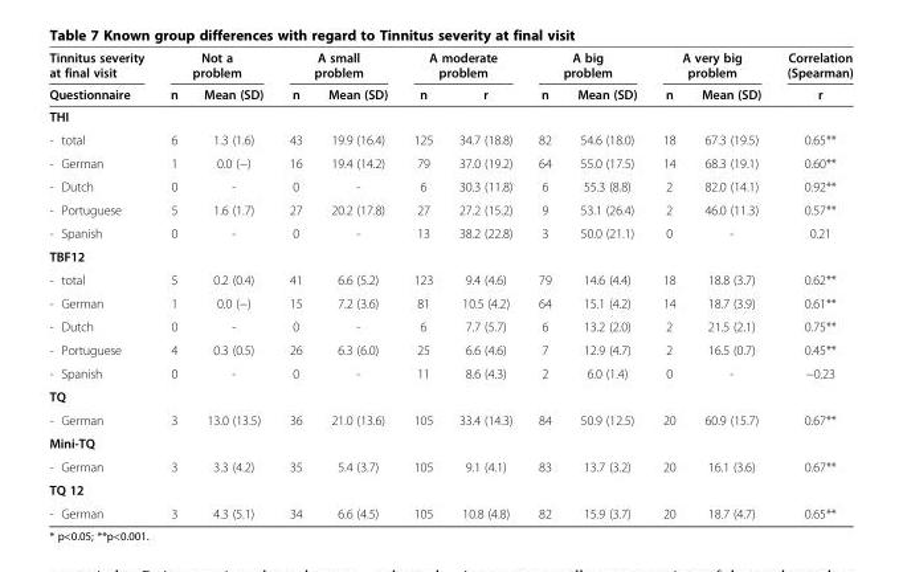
<table><thead><tr><td rowspan="2">Tinnitus severity at final visit Questionnaire</td><td colspan="2">Not a problem</td><td colspan="2">A small problem</td><td colspan="2">A moderate problem</td><td colspan="2">A big problem</td><td colspan="2">A very big problem</td><td rowspan="2">Correlation (Spearman) r</td></tr><tr><td>n</td><td>Mean (SD)</td><td>n</td><td>Mean (SD)</td><td>n</td><td>r</td><td>n</td><td>Mean (SD)</td><td>n</td><td>Mean (SD)</td></tr></thead><tbody><tr><td colspan="12">THI</td></tr><tr><td>- total</td><td>6</td><td>1.3 (1.6)</td><td>43</td><td>19.9 (16.4)</td><td>125</td><td>34.7 (18.8)</td><td>82</td><td>54.6 (18.0)</td><td>18</td><td>67.3 (19.5)</td><td>0.65**</td></tr><tr><td>- German</td><td>1</td><td>0.0 (−)</td><td>16</td><td>19.4 (14.2)</td><td>79</td><td>37.0 (19.2)</td><td>64</td><td>55.0 (17.5)</td><td>14</td><td>68.3 (19.1)</td><td>0.60**</td></tr><tr><td>- Dutch</td><td>0</td><td>-</td><td>0</td><td>-</td><td>6</td><td>30.3 (11.8)</td><td>6</td><td>55.3 (8.8)</td><td>2</td><td>82.0 (14.1)</td><td>0.92**</td></tr><tr><td>- Portuguese</td><td>5</td><td>1.6 (1.7)</td><td>27</td><td>20.2 (17.8)</td><td>27</td><td>27.2 (15.2)</td><td>9</td><td>53.1 (26.4)</td><td>2</td><td>46.0 (11.3)</td><td>0.57**</td></tr><tr><td>- Spanish</td><td>0</td><td>-</td><td>0</td><td>-</td><td>13</td><td>38.2 (22.8)</td><td>3</td><td>50.0 (21.1)</td><td>0</td><td>-</td><td>0.21</td></tr><tr><td colspan="12">TBF12</td></tr><tr><td>- total</td><td>5</td><td>0.2 (0.4)</td><td>41</td><td>6.6 (5.2)</td><td>123</td><td>9.4 (4.6)</td><td>79</td><td>14.6 (4.4)</td><td>18</td><td>18.8 (3.7)</td><td>0.62**</td></tr><tr><td>- German</td><td>1</td><td>0.0 (−)</td><td>15</td><td>7.2 (3.6)</td><td>81</td><td>10.5 (4.2)</td><td>64</td><td>15.1 (4.2)</td><td>14</td><td>18.7 (3.9)</td><td>0.61**</td></tr><tr><td>- Dutch</td><td>0</td><td>-</td><td>0</td><td>-</td><td>6</td><td>7.7 (5.7)</td><td>6</td><td>13.2 (2.0)</td><td>2</td><td>21.5 (2.1)</td><td>0.75**</td></tr><tr><td>- Portuguese</td><td>4</td><td>0.3 (0.5)</td><td>26</td><td>6.3 (6.0)</td><td>25</td><td>6.6 (4.6)</td><td>7</td><td>12.9 (4.7)</td><td>2</td><td>16.5 (0.7)</td><td>0.45**</td></tr><tr><td>- Spanish</td><td>0</td><td>-</td><td>0</td><td>-</td><td>11</td><td>8.6 (4.3)</td><td>2</td><td>6.0 (1.4)</td><td>0</td><td>-</td><td>−0.23</td></tr><tr><td colspan="12">TQ</td></tr><tr><td>- German</td><td>3</td><td>13.0 (13.5)</td><td>36</td><td>21.0 (13.6)</td><td>105</td><td>33.4 (14.3)</td><td>84</td><td>50.9 (12.5)</td><td>20</td><td>60.9 (15.7)</td><td>0.67**</td></tr><tr><td colspan="12">Mini-TQ</td></tr><tr><td>- German</td><td>3</td><td>3.3 (4.2)</td><td>35</td><td>5.4 (3.7)</td><td>105</td><td>9.1 (4.1)</td><td>83</td><td>13.7 (3.2)</td><td>20</td><td>16.1 (3.6)</td><td>0.67**</td></tr><tr><td colspan="12">TQ 12</td></tr><tr><td>- German</td><td>3</td><td>4.3 (5.1)</td><td>34</td><td>6.6 (4.5)</td><td>105</td><td>10.8 (4.8)</td><td>82</td><td>15.9 (3.7)</td><td>20</td><td>18.7 (4.7)</td><td>0.65**</td></tr></tbody></table>